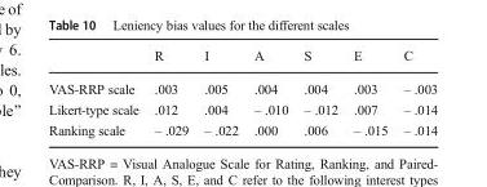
<table><thead><tr><td></td><td>R</td><td>I</td><td>A</td><td>S</td><td>E</td><td>C</td></tr></thead><tbody><tr><td>VAS-RRP scale</td><td>.003</td><td>.005</td><td>.004</td><td>.004</td><td>.003</td><td>– .003</td></tr><tr><td>Likert-type scale</td><td>.012</td><td>.004</td><td>– .010</td><td>– .012</td><td>.007</td><td>– .014</td></tr><tr><td>Ranking scale</td><td>– .029</td><td>– .022</td><td>.000</td><td>.006</td><td>– .015</td><td>– .014</td></tr></tbody></table>